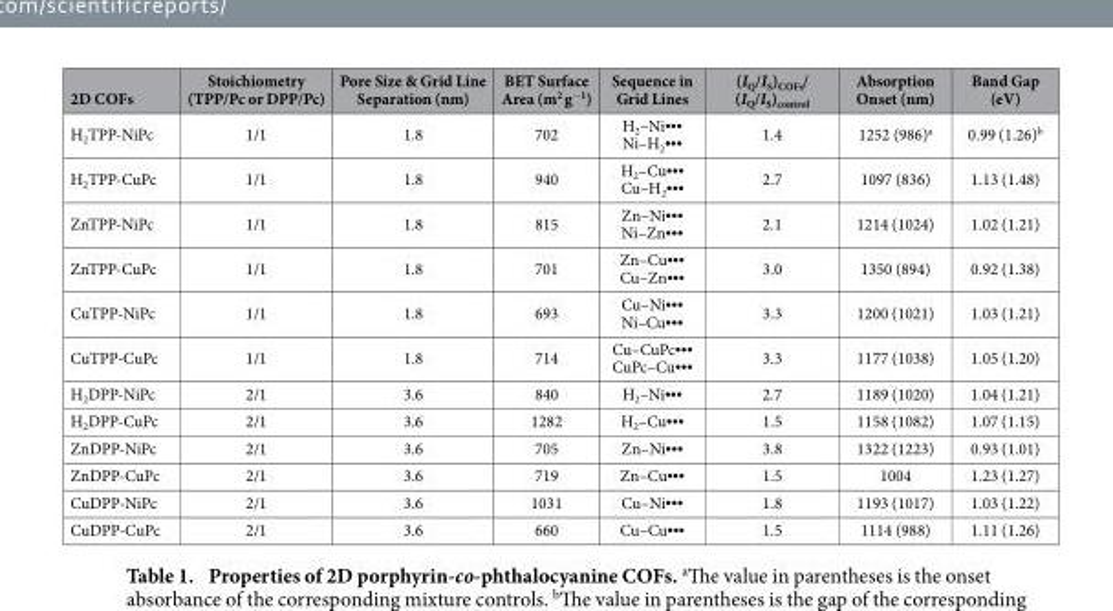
<table><thead><tr><td>2D COFs</td><td>Stoichiometry (TPP/Pc or DPP/Pc)</td><td>Pore Size &amp; Grid Line Separation (nm)</td><td>BET Surface Area (m<sup>2</sup> g<sup>−1</sup>)</td><td>Sequence in Grid Lines</td><td>(I<sub>Q</sub>/I<sub>S</sub>)<sub>COFs</sub>/ (I<sub>Q</sub>/I<sub>S</sub>)<sub>control</sub></td><td>Absorption Onset (nm)</td><td>Band Gap (eV)</td></tr></thead><tbody><tr><td>H<sub>2</sub>TPP-NiPc</td><td>1/1</td><td>1.8</td><td>702</td><td>H<sub>2</sub>–Ni• • • Ni–H<sub>2</sub>• • •</td><td>1.4</td><td>1252 (986)<sup>a</sup></td><td>0.99 (1.26)<sup>b</sup></td></tr><tr><td>H<sub>2</sub>TPP-CuPc</td><td>1/1</td><td>1.8</td><td>940</td><td>H<sub>2</sub>–Cu••• Cu–H<sub>2</sub>•••</td><td>2.7</td><td>1097 (836)</td><td>1.13 (1.48)</td></tr><tr><td>ZnTPP-NiPc</td><td>1/1</td><td>1.8</td><td>815</td><td>Zn–Ni••• Ni–Zn•••</td><td>2.1</td><td>1214 (1024)</td><td>1.02 (1.21)</td></tr><tr><td>ZnTPP-CuPc</td><td>1/1</td><td>1.8</td><td>701</td><td>Zn–Cu••• Cu–Zn•••</td><td>3.0</td><td>1350 (894)</td><td>0.92 (1.38)</td></tr><tr><td>CuTPP-NiPc</td><td>1/1</td><td>1.8</td><td>693</td><td>Cu–Ni••• Ni–Cu•••</td><td>3.3</td><td>1200 (1021)</td><td>1.03 (1.21)</td></tr><tr><td>CuTPP-CuPc</td><td>1/1</td><td>1.8</td><td>714</td><td>Cu–CuPc••• CuPc–Cu•••</td><td>3.3</td><td>1177 (1038)</td><td>1.05 (1.20)</td></tr><tr><td>H<sub>2</sub>DPP-NiPc</td><td>2/1</td><td>3.6</td><td>840</td><td>H<sub>2</sub>–Ni•••</td><td>2.7</td><td>1189 (1020)</td><td>1.04 (1.21)</td></tr><tr><td>H<sub>2</sub>DPP-CuPc</td><td>2/1</td><td>3.6</td><td>1282</td><td>H<sub>2</sub>–Cu•••</td><td>1.5</td><td>1158 (1082)</td><td>1.07 (1.15)</td></tr><tr><td>ZnDPP-NiPc</td><td>2/1</td><td>3.6</td><td>705</td><td>Zn–Ni•••</td><td>3.8</td><td>1322 (1223)</td><td>0.93 (1.01)</td></tr><tr><td>ZnDPP-CuPc</td><td>2/1</td><td>3.6</td><td>719</td><td>Zn–Cu•••</td><td>1.5</td><td>1004</td><td>1.23 (1.27)</td></tr><tr><td>CuDPP-NiPc</td><td>2/1</td><td>3.6</td><td>1031</td><td>Cu–Ni•••</td><td>1.8</td><td>1193 (1017)</td><td>1.03 (1.22)</td></tr><tr><td>CuDPP-CuPc</td><td>2/1</td><td>3.6</td><td>660</td><td>Cu–Cu•••</td><td>1.5</td><td>1114 (988)</td><td>1.11 (1.26)</td></tr></tbody></table>